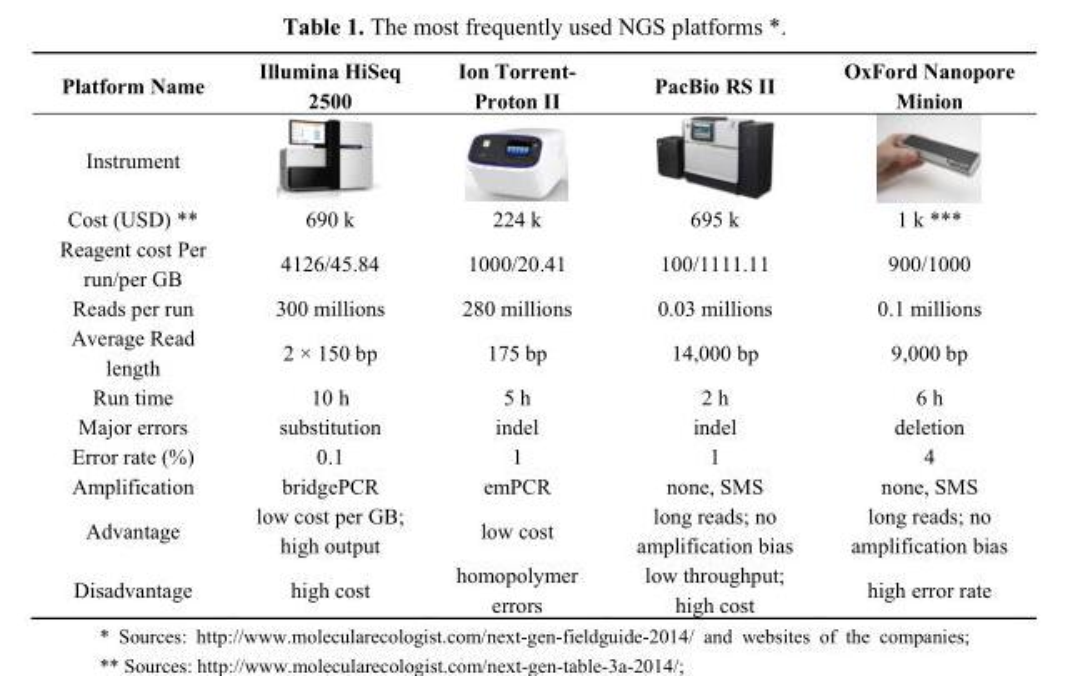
<table><thead><tr><td>Platform Name</td><td>Illumina HiSeq 2500</td><td>Ion Torrent- Proton II</td><td>PacBio RS II</td><td>OxFord Nanopore Minion</td></tr></thead><tbody><tr><td colspan="5">Instrument</td></tr><tr><td>Cost (USD) **</td><td>690 k</td><td>224 k</td><td>695 k</td><td>1 k ***</td></tr><tr><td>Reagent cost Per run/per GB</td><td>4126/45.84</td><td>1000/20.41</td><td>100/1111.11</td><td>900/1000</td></tr><tr><td>Reads per run</td><td>300 millions</td><td>280 millions</td><td>0.03 millions</td><td>0.1 millions</td></tr><tr><td>Average Read length</td><td>2 × 150 bp</td><td>175 bp</td><td>14,000 bp</td><td>9,000 bp</td></tr><tr><td>Run time</td><td>10 h</td><td>5 h</td><td>2 h</td><td>6 h</td></tr><tr><td>Major errors</td><td>substitution</td><td>indel</td><td>indel</td><td>deletion</td></tr><tr><td>Error rate (%)</td><td>0.1</td><td>1</td><td>1</td><td>4</td></tr><tr><td>Amplification</td><td>bridgePCR</td><td>emPCR</td><td>none, SMS</td><td>none, SMS</td></tr><tr><td>Advantage</td><td>low cost per GB; high output</td><td>low cost</td><td>long reads; no amplification bias</td><td>long reads; no amplification bias</td></tr><tr><td>Disadvantage</td><td>high cost</td><td>homopolymer errors</td><td>low throughput; high cost</td><td>high error rate</td></tr></tbody></table>